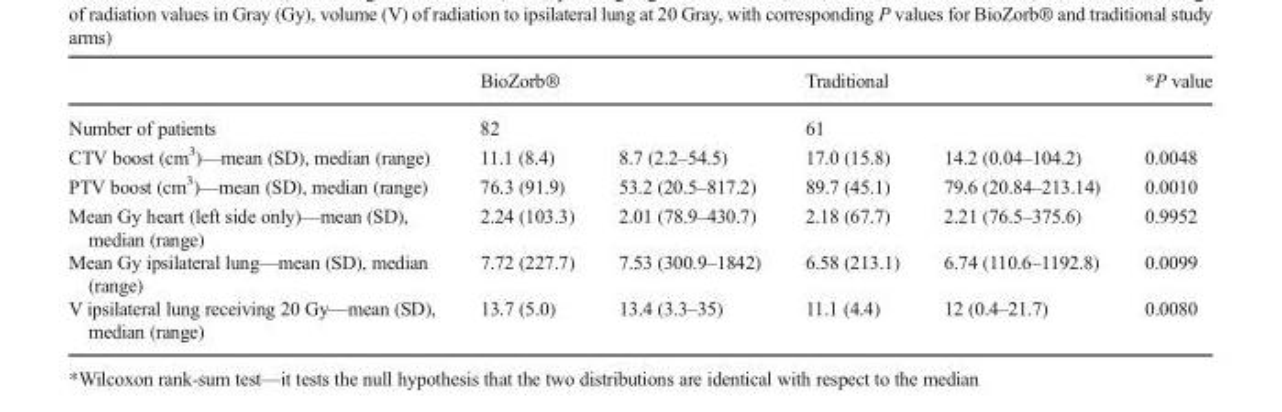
<table><thead><tr><td rowspan="3">Number of patients CTV boost (cm<sup>3</sup>)—mean (SD), median (range)</td><td rowspan="2" colspan="2">BioZorb® 82</td><td rowspan="2" colspan="2">Traditional 61</td><td rowspan="3">*P value 0.0048</td></tr><tr></tr><tr><td>11.1 (8.4)</td><td>8.7 (2.2–54.5)</td><td>17.0 (15.8)</td><td>14.2 (0.04–104.2)</td></tr></thead><tbody><tr><td>PTV boost (cm<sup>3</sup>)—mean (SD), median (range)</td><td>76.3 (91.9)</td><td>53.2 (20.5–817.2)</td><td>89.7 (45.1)</td><td>79.6 (20.84–213.14)</td><td>0.0010</td></tr><tr><td>Mean Gy heart (left side only)—mean (SD), median (range)</td><td>2.24 (103.3)</td><td>2.01 (78.9–430.7)</td><td>2.18 (67.7)</td><td>2.21 (76.5–375.6)</td><td>0.9952</td></tr><tr><td>Mean Gy ipsilateral lung—mean (SD), median (range)</td><td>7.72 (227.7)</td><td>7.53 (300.9–1842)</td><td>6.58 (213.1)</td><td>6.74 (110.6–1192.8)</td><td>0.0099</td></tr><tr><td>V ipsilateral lung receiving 20 Gy—mean (SD), median (range)</td><td>13.7 (5.0)</td><td>13.4 (3.3–35)</td><td>11.1 (4.4)</td><td>12 (0.4–21.7)</td><td>0.0080</td></tr></tbody></table>